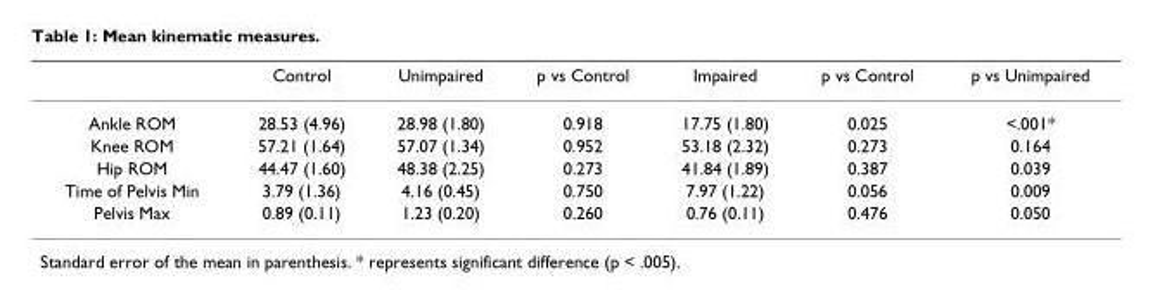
<table><thead><tr><td></td><td>Control</td><td>Unimpaired</td><td>p vs Control</td><td>Impaired</td><td>p vs Control</td><td>p vs Unimpaired</td></tr></thead><tbody><tr><td>Ankle ROM</td><td>28.53 (4.96)</td><td>28.98 (1.80)</td><td>0.918</td><td>17.75 (1.80)</td><td>0.025</td><td>&lt;.001*</td></tr><tr><td>Knee ROM</td><td>57.21 (1.64)</td><td>57.07 (1.34)</td><td>0.952</td><td>53.18 (2.32)</td><td>0.273</td><td>0.164</td></tr><tr><td>Hip ROM</td><td>44.47 (1.60)</td><td>48.38 (2.25)</td><td>0.273</td><td>41.84 (1.89)</td><td>0.387</td><td>0.039</td></tr><tr><td>Time of Pelvis Min</td><td>3.79 (1.36)</td><td>4.16 (0.45)</td><td>0.750</td><td>7.97 (1.22)</td><td>0.056</td><td>0.009</td></tr><tr><td>Pelvis Max</td><td>0.89 (0.11)</td><td>1.23 (0.20)</td><td>0.260</td><td>0.76 (0.11)</td><td>0.476</td><td>0.050</td></tr></tbody></table>